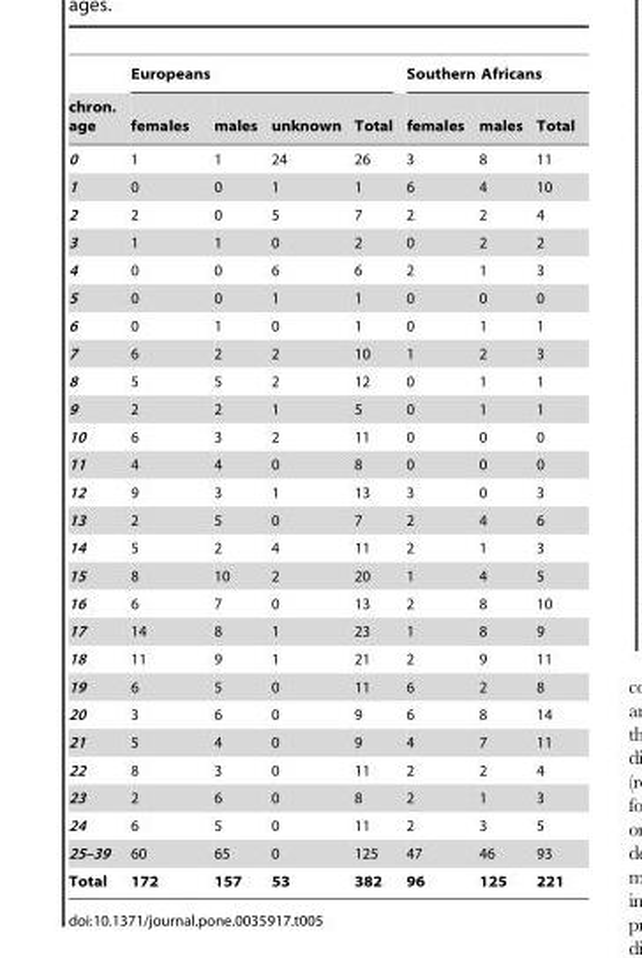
<table><thead><tr><td rowspan="2">chron. age</td><td colspan="4">Europeans</td><td colspan="3">Southern Africans</td></tr><tr><td>females</td><td>males</td><td>unknown</td><td>Total</td><td>females</td><td>males</td><td>Total</td></tr></thead><tbody><tr><td>0</td><td>1</td><td>1</td><td>24</td><td>26</td><td>3</td><td>8</td><td>11</td></tr><tr><td>1</td><td>0</td><td>0</td><td>1</td><td>1</td><td>6</td><td>4</td><td>10</td></tr><tr><td>2</td><td>2</td><td>0</td><td>5</td><td>7</td><td>2</td><td>2</td><td>4</td></tr><tr><td>3</td><td>1</td><td>1</td><td>0</td><td>2</td><td>0</td><td>2</td><td>2</td></tr><tr><td>4</td><td>0</td><td>0</td><td>6</td><td>6</td><td>2</td><td>1</td><td>3</td></tr><tr><td>5</td><td>0</td><td>0</td><td>1</td><td>1</td><td>0</td><td>0</td><td>0</td></tr><tr><td>6</td><td>0</td><td>1</td><td>0</td><td>1</td><td>0</td><td>1</td><td>1</td></tr><tr><td>7</td><td>6</td><td>2</td><td>2</td><td>10</td><td>1</td><td>2</td><td>3</td></tr><tr><td>8</td><td>5</td><td>5</td><td>2</td><td>12</td><td>0</td><td>1</td><td>1</td></tr><tr><td>9</td><td>2</td><td>2</td><td>1</td><td>5</td><td>0</td><td>1</td><td>1</td></tr><tr><td>10</td><td>6</td><td>3</td><td>2</td><td>11</td><td>0</td><td>0</td><td>0</td></tr><tr><td>11</td><td>4</td><td>4</td><td>0</td><td>8</td><td>0</td><td>0</td><td>0</td></tr><tr><td>12</td><td>9</td><td>3</td><td>1</td><td>13</td><td>3</td><td>0</td><td>3</td></tr><tr><td>13</td><td>2</td><td>5</td><td>0</td><td>7</td><td>2</td><td>4</td><td>6</td></tr><tr><td>14</td><td>5</td><td>2</td><td>4</td><td>11</td><td>2</td><td>1</td><td>3</td></tr><tr><td>15</td><td>8</td><td>10</td><td>2</td><td>20</td><td>1</td><td>4</td><td>5</td></tr><tr><td>16</td><td>6</td><td>7</td><td>0</td><td>13</td><td>2</td><td>8</td><td>10</td></tr><tr><td>17</td><td>14</td><td>8</td><td>1</td><td>23</td><td>1</td><td>8</td><td>9</td></tr><tr><td>18</td><td>11</td><td>9</td><td>1</td><td>21</td><td>2</td><td>9</td><td>11</td></tr><tr><td>19</td><td>6</td><td>5</td><td>0</td><td>11</td><td>6</td><td>2</td><td>8</td></tr><tr><td>20</td><td>3</td><td>6</td><td>0</td><td>9</td><td>6</td><td>8</td><td>14</td></tr><tr><td>21</td><td>5</td><td>4</td><td>0</td><td>9</td><td>4</td><td>7</td><td>11</td></tr><tr><td>22</td><td>8</td><td>3</td><td>0</td><td>11</td><td>2</td><td>2</td><td>4</td></tr><tr><td>23</td><td>2</td><td>6</td><td>0</td><td>8</td><td>2</td><td>1</td><td>3</td></tr><tr><td>24</td><td>6</td><td>5</td><td>0</td><td>11</td><td>2</td><td>3</td><td>5</td></tr><tr><td>25–39</td><td>60</td><td>65</td><td>0</td><td>125</td><td>47</td><td>46</td><td>93</td></tr><tr><td>Total</td><td>172</td><td>157</td><td>53</td><td>382</td><td>96</td><td>125</td><td>221</td></tr></tbody></table>